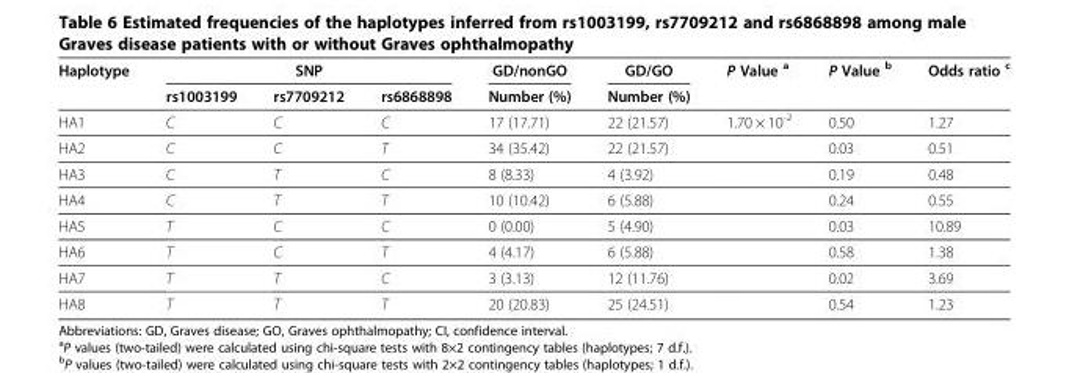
<table><thead><tr><td rowspan="2">Haplotype</td><td rowspan="2">rs1003199</td><td rowspan="2">SNP rs7709212</td><td rowspan="2">rs6868898</td><td rowspan="2">GD/nonGO Number (%)</td><td rowspan="2">GD/GO Number (%)</td><td rowspan="2">P Value <sup>a</sup></td><td rowspan="2">P Value <sup>b</sup></td><td rowspan="2">Odds ratio <sup>c</sup></td></tr><tr></tr></thead><tbody><tr><td>HA1</td><td>C</td><td>C</td><td>C</td><td>17 (17.71)</td><td>22 (21.57)</td><td>1.70 × 10<sup>-2</sup></td><td>0.50</td><td>1.27</td></tr><tr><td>HA2</td><td>C</td><td>C</td><td>T</td><td>34 (35.42)</td><td>22 (21.57)</td><td></td><td>0.03</td><td>0.51</td></tr><tr><td>HA3</td><td>C</td><td>T</td><td>C</td><td>8 (8.33)</td><td>4 (3.92)</td><td></td><td>0.19</td><td>0.48</td></tr><tr><td>HA4</td><td>C</td><td>T</td><td>T</td><td>10 (10.42)</td><td>6 (5.88)</td><td></td><td>0.24</td><td>0.55</td></tr><tr><td>HA5</td><td>T</td><td>C</td><td>C</td><td>0 (0.00)</td><td>5 (4.90)</td><td></td><td>0.03</td><td>10.89</td></tr><tr><td>HA6</td><td>T</td><td>C</td><td>T</td><td>4 (4.17)</td><td>6 (5.88)</td><td></td><td>0.58</td><td>1.38</td></tr><tr><td>HA7</td><td>T</td><td>T</td><td>C</td><td>3 (3.13)</td><td>12 (11.76)</td><td></td><td>0.02</td><td>3.69</td></tr><tr><td>HA8</td><td>T</td><td>T</td><td>T</td><td>20 (20.83)</td><td>25 (24.51)</td><td></td><td>0.54</td><td>1.23</td></tr></tbody></table>